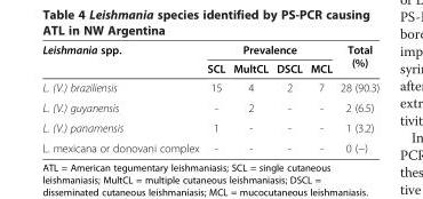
<table><thead><tr><td rowspan="2">Leishmania spp.</td><td colspan="4">Prevalence</td><td rowspan="2">Total (%)</td></tr><tr><td>SCL</td><td>MultCL</td><td>DSCL</td><td>MCL</td></tr></thead><tbody><tr><td>L. (V.) braziliensis</td><td>15</td><td>4</td><td>2</td><td>7</td><td>28 (90.3)</td></tr><tr><td>L. (V.) guyanensis</td><td>-</td><td>2</td><td>-</td><td>-</td><td>2 (6.5)</td></tr><tr><td>L. (V.) panamensis</td><td>1</td><td>-</td><td>-</td><td>-</td><td>1 (3.2)</td></tr><tr><td>L. mexicana or donovani complex</td><td>-</td><td>-</td><td>-</td><td>-</td><td>0 (−)</td></tr></tbody></table>